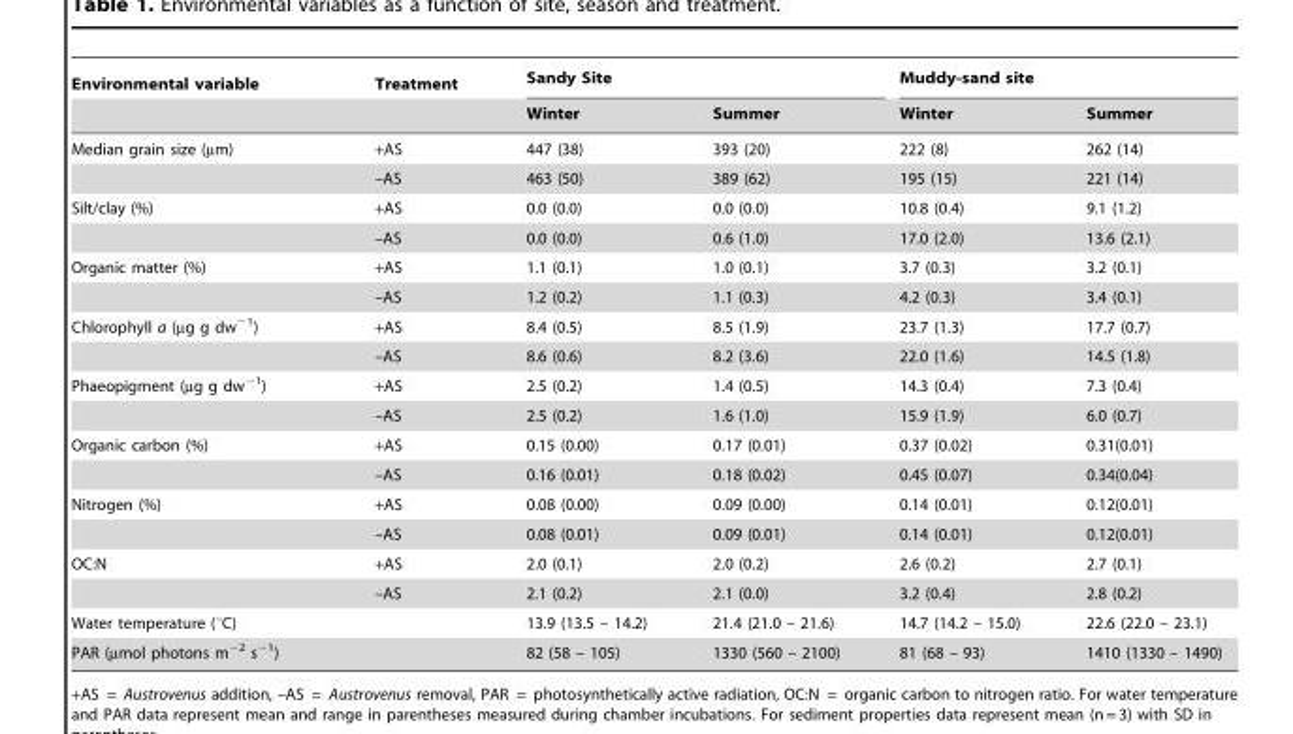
<table><thead><tr><td rowspan="2">Environmental variable</td><td rowspan="2">Treatment</td><td colspan="2">Sandy Site</td><td colspan="2">Muddy-sand site</td></tr><tr><td>Winter</td><td>Summer</td><td>Winter</td><td>Summer</td></tr></thead><tbody><tr><td rowspan="2">Median grain size (µm)</td><td>+AS</td><td>447 (38)</td><td>393 (20)</td><td>222 (8)</td><td>262 (14)</td></tr><tr><td>–AS</td><td>463 (50)</td><td>389 (62)</td><td>195 (15)</td><td>221 (14)</td></tr><tr><td rowspan="2">Silt/clay (%)</td><td>+AS</td><td>0.0 (0.0)</td><td>0.0 (0.0)</td><td>10.8 (0.4)</td><td>9.1 (1.2)</td></tr><tr><td>–AS</td><td>0.0 (0.0)</td><td>0.6 (1.0)</td><td>17.0 (2.0)</td><td>13.6 (2.1)</td></tr><tr><td rowspan="2">Organic matter (%)</td><td>+AS</td><td>1.1 (0.1)</td><td>1.0 (0.1)</td><td>3.7 (0.3)</td><td>3.2 (0.1)</td></tr><tr><td>–AS</td><td>1.2 (0.2)</td><td>1.1 (0.3)</td><td>4.2 (0.3)</td><td>3.4 (0.1)</td></tr><tr><td rowspan="2">Chlorophyll a (µg g dw<sup>−1</sup>)</td><td>+AS</td><td>8.4 (0.5)</td><td>8.5 (1.9)</td><td>23.7 (1.3)</td><td>17.7 (0.7)</td></tr><tr><td>–AS</td><td>8.6 (0.6)</td><td>8.2 (3.6)</td><td>22.0 (1.6)</td><td>14.5 (1.8)</td></tr><tr><td rowspan="2">Phaeopigment (µg g dw<sup>−1</sup>)</td><td>+AS</td><td>2.5 (0.2)</td><td>1.4 (0.5)</td><td>14.3 (0.4)</td><td>7.3 (0.4)</td></tr><tr><td>–AS</td><td>2.5 (0.2)</td><td>1.6 (1.0)</td><td>15.9 (1.9)</td><td>6.0 (0.7)</td></tr><tr><td rowspan="2">Organic carbon (%)</td><td>+AS</td><td>0.15 (0.00)</td><td>0.17 (0.01)</td><td>0.37 (0.02)</td><td>0.31(0.01)</td></tr><tr><td>–AS</td><td>0.16 (0.01)</td><td>0.18 (0.02)</td><td>0.45 (0.07)</td><td>0.34(0.04)</td></tr><tr><td rowspan="2">Nitrogen (%)</td><td>+AS</td><td>0.08 (0.00)</td><td>0.09 (0.00)</td><td>0.14 (0.01)</td><td>0.12(0.01)</td></tr><tr><td>–AS</td><td>0.08 (0.01)</td><td>0.09 (0.01)</td><td>0.14 (0.01)</td><td>0.12(0.01)</td></tr><tr><td rowspan="2">OC:N</td><td>+AS</td><td>2.0 (0.1)</td><td>2.0 (0.2)</td><td>2.6 (0.2)</td><td>2.7 (0.1)</td></tr><tr><td>–AS</td><td>2.1 (0.2)</td><td>2.1 (0.0)</td><td>3.2 (0.4)</td><td>2.8 (0.2)</td></tr><tr><td>Water temperature (°C)</td><td></td><td>13.9 (13.5 – 14.2)</td><td>21.4 (21.0 – 21.6)</td><td>14.7 (14.2 – 15.0)</td><td>22.6 (22.0 – 23.1)</td></tr><tr><td>PAR (µmol photons m<sup>−2</sup> s<sup>−1</sup>)</td><td></td><td>82 (58 – 105)</td><td>1330 (560 – 2100)</td><td>81 (68 – 93)</td><td>1410 (1330 – 1490)</td></tr></tbody></table>